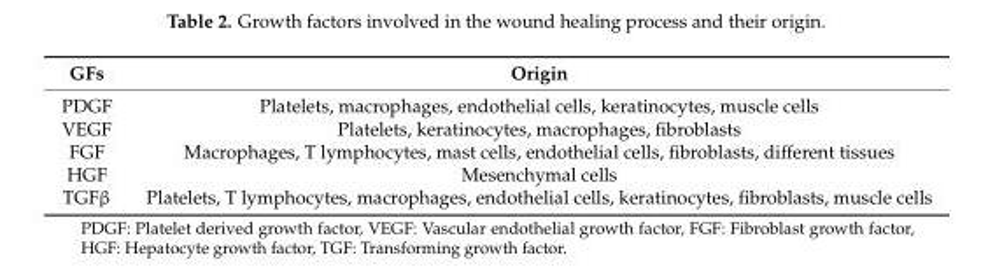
<table><thead><tr><td>GFs</td><td>Origin</td></tr></thead><tbody><tr><td>PDGF</td><td>Platelets, macrophages, endothelial cells, keratinocytes, muscle cells</td></tr><tr><td>VEGF</td><td>Platelets, keratinocytes, macrophages, fibroblasts</td></tr><tr><td>FGF</td><td>Macrophages, T lymphocytes, mast cells, endothelial cells, fibroblasts, different tissues</td></tr><tr><td>HGF</td><td>Mesenchymal cells</td></tr><tr><td>TGFβ</td><td>Platelets, T lymphocytes, macrophages, endothelial cells, keratinocytes, fibroblasts, muscle cells</td></tr></tbody></table>